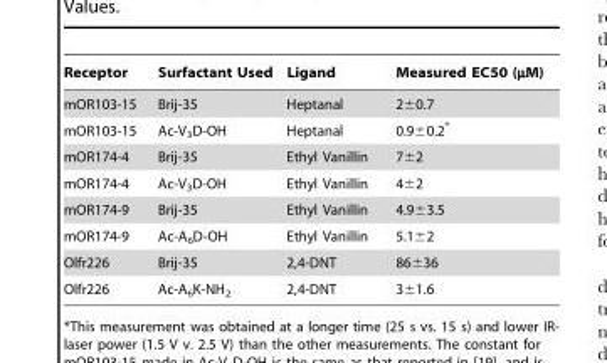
<table><thead><tr><td>Receptor</td><td>Surfactant Used</td><td>Ligand</td><td>Measured EC50 (µM)</td></tr></thead><tbody><tr><td>mOR103-15</td><td>Brij-35</td><td>Heptanal</td><td>2±0.7</td></tr><tr><td>mOR103-15</td><td>Ac-V<sub>3</sub>D-OH</td><td>Heptanal</td><td>0.9±0.2*</td></tr><tr><td>mOR174-4</td><td>Brij-35</td><td>Ethyl Vanillin</td><td>7±2</td></tr><tr><td>mOR174-4</td><td>Ac-V<sub>3</sub>D-OH</td><td>Ethyl Vanillin</td><td>4±2</td></tr><tr><td>mOR174-9</td><td>Brij-35</td><td>Ethyl Vanillin</td><td>4.9±3.5</td></tr><tr><td>mOR174-9</td><td>Ac-A<sub>6</sub>D-OH</td><td>Ethyl Vanillin</td><td>5.1±2</td></tr><tr><td>Olfr226</td><td>Brij-35</td><td>2,4-DNT</td><td>86±36</td></tr><tr><td>Olfr226</td><td>Ac-A<sub>6</sub>K-NH<sub>2</sub></td><td>2,4-DNT</td><td>3±1.6</td></tr></tbody></table>